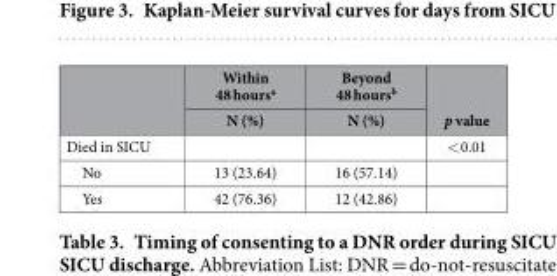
<table><thead><tr><td rowspan="2"></td><td rowspan="2">Within 48 hours<sup>a</sup> N (%)</td><td rowspan="2">Beyond 48 hours<sup>b</sup> N (%)</td><td rowspan="2">p value</td></tr><tr></tr></thead><tbody><tr><td>Died in SICU</td><td></td><td></td><td>&lt; 0.01</td></tr><tr><td>No</td><td>13 (23.64)</td><td>16 (57.14)</td><td></td></tr><tr><td>Yes</td><td>42 (76.36)</td><td>12 (42.86)</td><td></td></tr></tbody></table>